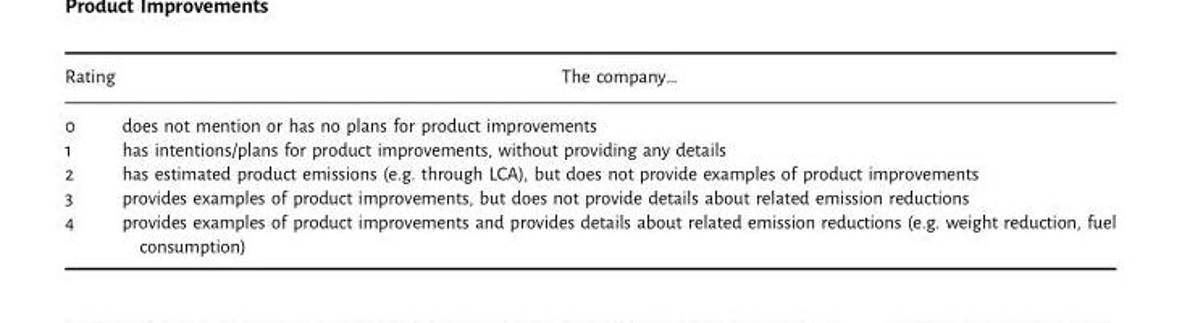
<table><thead><tr><td>Rating</td><td>The company…</td></tr></thead><tbody><tr><td>0</td><td>does not mention or has no plans for product improvements</td></tr><tr><td>1</td><td>has intentions/plans for product improvements, without providing any details</td></tr><tr><td>2</td><td>has estimated product emissions (e.g. through LCA), but does not provide examples of product improvements</td></tr><tr><td>3</td><td>provides examples of product improvements, but does not provide details about related emission reductions</td></tr><tr><td>4</td><td>provides examples of product improvements and provides details about related emission reductions (e.g. weight reduction, fuel consumption)</td></tr></tbody></table>